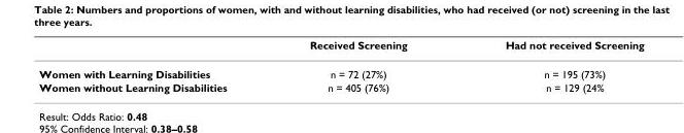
<table><thead><tr><td></td><td>Received Screening</td><td>Had not received Screening</td></tr></thead><tbody><tr><td>Women with Learning Disabilities</td><td>n = 72 (27%)</td><td>n = 195 (73%)</td></tr><tr><td>Women without Learning Disabilities</td><td>n = 405 (76%)</td><td>n = 129 (24%</td></tr></tbody></table>